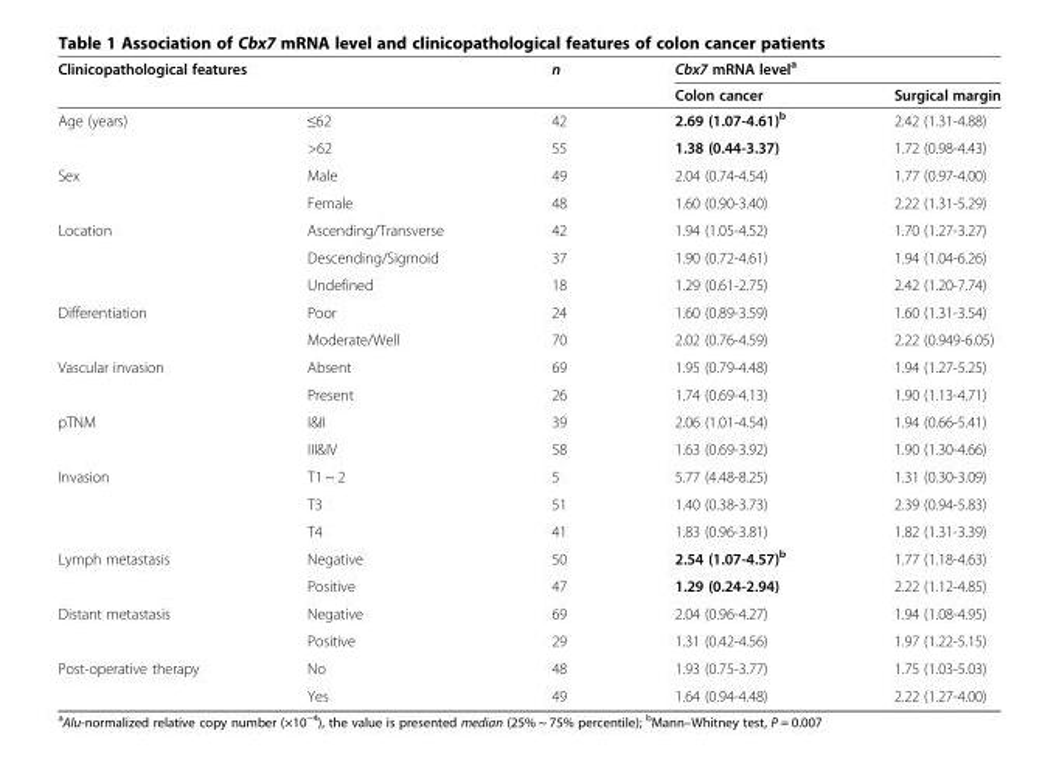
<table><thead><tr><td rowspan="2" colspan="2">Clinicopathological features</td><td rowspan="3">n 42</td><td colspan="2">Cbx7 mRNA level<sup>a</sup></td></tr><tr><td rowspan="2">Colon cancer 2.69 (1.07-4.61)<sup>b</sup></td><td rowspan="2">Surgical margin 2.42 (1.31-4.88)</td></tr><tr><td>Age (years)</td><td>≤62</td></tr></thead><tbody><tr><td></td><td>&gt;62</td><td>55</td><td>1.38 (0.44-3.37)</td><td>1.72 (0.98-4.43)</td></tr><tr><td rowspan="2">Sex</td><td>Male</td><td>49</td><td>2.04 (0.74-4.54)</td><td>1.77 (0.97-4.00)</td></tr><tr><td>Female</td><td>48</td><td>1.60 (0.90-3.40)</td><td>2.22 (1.31-5.29)</td></tr><tr><td rowspan="3">Location</td><td>Ascending/Transverse</td><td>42</td><td>1.94 (1.05-4.52)</td><td>1.70 (1.27-3.27)</td></tr><tr><td>Descending/Sigmoid</td><td>37</td><td>1.90 (0.72-4.61)</td><td>1.94 (1.04-6.26)</td></tr><tr><td>Undefined</td><td>18</td><td>1.29 (0.61-2.75)</td><td>2.42 (1.20-7.74)</td></tr><tr><td rowspan="2">Differentiation</td><td>Poor</td><td>24</td><td>1.60 (0.89-3.59)</td><td>1.60 (1.31-3.54)</td></tr><tr><td>Moderate/Well</td><td>70</td><td>2.02 (0.76-4.59)</td><td>2.22 (0.949-6.05)</td></tr><tr><td rowspan="2">Vascular invasion</td><td>Absent</td><td>69</td><td>1.95 (0.79-4.48)</td><td>1.94 (1.27-5.25)</td></tr><tr><td>Present</td><td>26</td><td>1.74 (0.69-4.13)</td><td>1.90 (1.13-4.71)</td></tr><tr><td rowspan="2">pTNM</td><td>I&amp;II</td><td>39</td><td>2.06 (1.01-4.54)</td><td>1.94 (0.66-5.41)</td></tr><tr><td>III&amp;IV</td><td>58</td><td>1.63 (0.69-3.92)</td><td>1.90 (1.30-4.66)</td></tr><tr><td rowspan="3">Invasion</td><td>T1 ~ 2</td><td>5</td><td>5.77 (4.48-8.25)</td><td>1.31 (0.30-3.09)</td></tr><tr><td>T3</td><td>51</td><td>1.40 (0.38-3.73)</td><td>2.39 (0.94-5.83)</td></tr><tr><td>T4</td><td>41</td><td>1.83 (0.96-3.81)</td><td>1.82 (1.31-3.39)</td></tr><tr><td rowspan="2">Lymph metastasis</td><td>Negative</td><td>50</td><td>2.54 (1.07-4.57)<sup>b</sup></td><td>1.77 (1.18-4.63)</td></tr><tr><td>Positive</td><td>47</td><td>1.29 (0.24-2.94)</td><td>2.22 (1.12-4.85)</td></tr><tr><td rowspan="2">Distant metastasis</td><td>Negative</td><td>69</td><td>2.04 (0.96-4.27)</td><td>1.94 (1.08-4.95)</td></tr><tr><td>Positive</td><td>29</td><td>1.31 (0.42-4.56)</td><td>1.97 (1.22-5.15)</td></tr><tr><td rowspan="2">Post-operative therapy</td><td>No</td><td>48</td><td>1.93 (0.75-3.77)</td><td>1.75 (1.03-5.03)</td></tr><tr><td>Yes</td><td>49</td><td>1.64 (0.94-4.48)</td><td>2.22 (1.27-4.00)</td></tr></tbody></table>